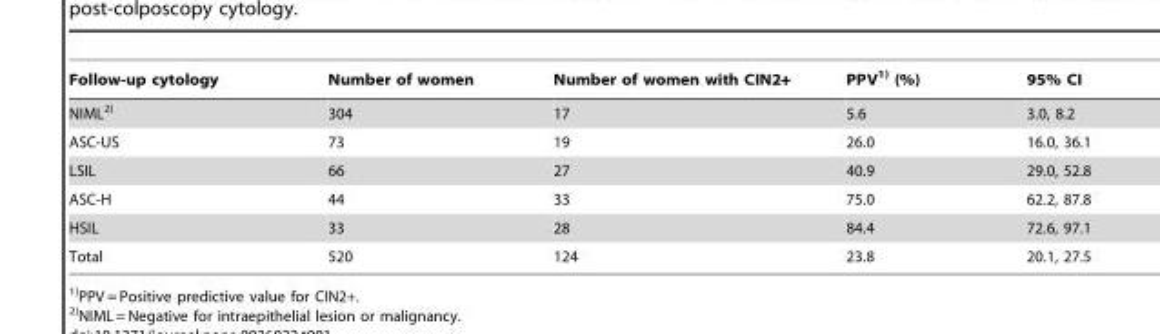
<table><thead><tr><td>Follow-up cytology</td><td>Number of women</td><td>Number of women with CIN2+</td><td>PPV1) (%)</td><td>95% CI</td></tr></thead><tbody><tr><td>NIML2)</td><td>304</td><td>17</td><td>5.6</td><td>3.0, 8.2</td></tr><tr><td>ASC-US</td><td>73</td><td>19</td><td>26.0</td><td>16.0, 36.1</td></tr><tr><td>LSIL</td><td>66</td><td>27</td><td>40.9</td><td>29.0, 52.8</td></tr><tr><td>ASC-H</td><td>44</td><td>33</td><td>75.0</td><td>62.2, 87.8</td></tr><tr><td>HSIL</td><td>33</td><td>28</td><td>84.4</td><td>72.6, 97.1</td></tr><tr><td>Total</td><td>520</td><td>124</td><td>23.8</td><td>20.1, 27.5</td></tr></tbody></table>